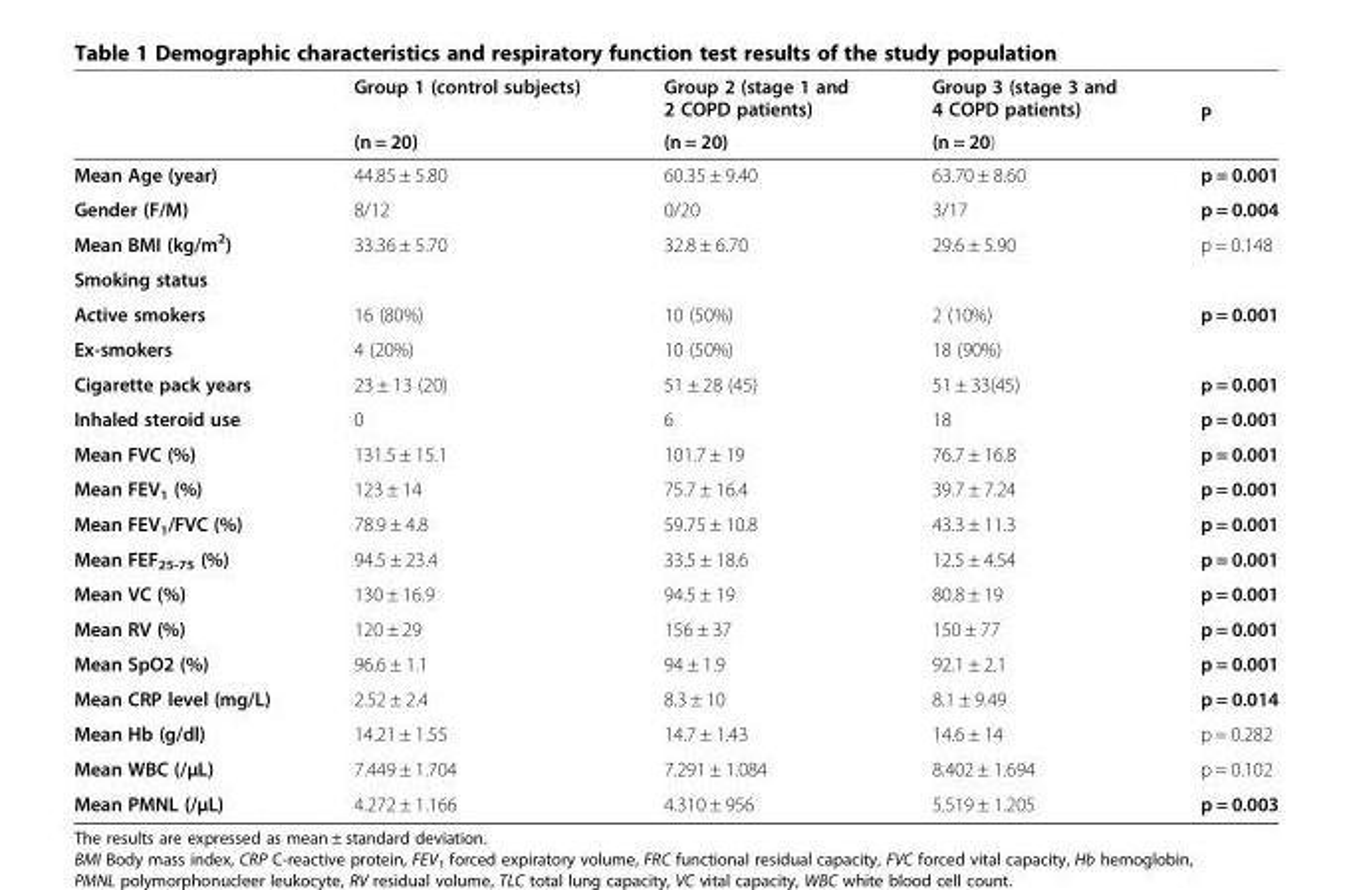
<table><thead><tr><td rowspan="2"></td><td rowspan="2">Group 1 (control subjects) (n = 20)</td><td rowspan="2">Group 2 (stage 1 and 2 COPD patients) (n = 20)</td><td rowspan="2">Group 3 (stage 3 and 4 COPD patients) (n = 20)</td><td rowspan="2">P</td></tr><tr></tr></thead><tbody><tr><td>Mean Age (year)</td><td>44.85 ± 5.80</td><td>60.35 ± 9.40</td><td>63.70 ± 8.60</td><td>p = 0.001</td></tr><tr><td>Gender (F/M)</td><td>8/12</td><td>0/20</td><td>3/17</td><td>p = 0.004</td></tr><tr><td>Mean BMI (kg/m<sup>2</sup>)</td><td>33.36 ± 5.70</td><td>32.8 ± 6.70</td><td>29.6 ± 5.90</td><td>p = 0.148</td></tr><tr><td colspan="5">Smoking status</td></tr><tr><td>Active smokers</td><td>16 (80%)</td><td>10 (50%)</td><td>2 (10%)</td><td rowspan="2">p = 0.001</td></tr><tr><td>Ex-smokers</td><td>4 (20%)</td><td>10 (50%)</td><td>18 (90%)</td></tr><tr><td>Cigarette pack years</td><td>23 ± 13 (20)</td><td>51 ± 28 (45)</td><td>51 ± 33(45)</td><td>p = 0.001</td></tr><tr><td>Inhaled steroid use</td><td>0</td><td>6</td><td>18</td><td>p = 0.001</td></tr><tr><td>Mean FVC (%)</td><td>131.5 ± 15.1</td><td>101.7 ± 19</td><td>76.7 ± 16.8</td><td>p = 0.001</td></tr><tr><td>Mean FEV<sub>1</sub> (%)</td><td>123 ± 14</td><td>75.7 ± 16.4</td><td>39.7 ± 7.24</td><td>p = 0.001</td></tr><tr><td>Mean FEV<sub>1</sub>/FVC (%)</td><td>78.9 ± 4.8</td><td>59.75 ± 10.8</td><td>43.3 ± 11.3</td><td>p = 0.001</td></tr><tr><td>Mean FEF<sub>25-75</sub> (%)</td><td>94.5 ± 23.4</td><td>33.5 ± 18.6</td><td>12.5 ± 4.54</td><td>p = 0.001</td></tr><tr><td>Mean VC (%)</td><td>130 ± 16.9</td><td>94.5 ± 19</td><td>80.8 ± 19</td><td>p = 0.001</td></tr><tr><td>Mean RV (%)</td><td>120 ± 29</td><td>156 ± 37</td><td>150 ± 77</td><td>p = 0.001</td></tr><tr><td>Mean SpO2 (%)</td><td>96.6 ± 1.1</td><td>94 ± 1.9</td><td>92.1 ± 2.1</td><td>p = 0.001</td></tr><tr><td>Mean CRP level (mg/L)</td><td>2.52 ± 2.4</td><td>8.3 ± 10</td><td>8.1 ± 9.49</td><td>p = 0.014</td></tr><tr><td>Mean Hb (g/dl)</td><td>14.21 ± 1.55</td><td>14.7 ± 1.43</td><td>14.6 ± 14</td><td>p = 0.282</td></tr><tr><td>Mean WBC (/μL)</td><td>7.449 ± 1.704</td><td>7.291 ± 1.084</td><td>8.402 ± 1.694</td><td>p = 0.102</td></tr><tr><td>Mean PMNL (/μL)</td><td>4.272 ± 1.166</td><td>4.310 ± 956</td><td>5.519 ± 1.205</td><td>p = 0.003</td></tr></tbody></table>